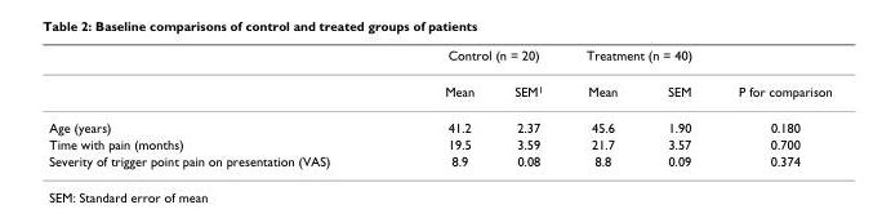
<table><thead><tr><td rowspan="2"></td><td colspan="2">Control (n = 20)</td><td colspan="2">Treatment (n = 40)</td><td rowspan="2">P for comparison</td></tr><tr><td>Mean</td><td>SEM<sup>1</sup></td><td>Mean</td><td>SEM</td></tr></thead><tbody><tr><td>Age (years)</td><td>41.2</td><td>2.37</td><td>45.6</td><td>1.90</td><td>0.180</td></tr><tr><td>Time with pain (months)</td><td>19.5</td><td>3.59</td><td>21.7</td><td>3.57</td><td>0.700</td></tr><tr><td>Severity of trigger point pain on presentation (VAS)</td><td>8.9</td><td>0.08</td><td>8.8</td><td>0.09</td><td>0.374</td></tr></tbody></table>